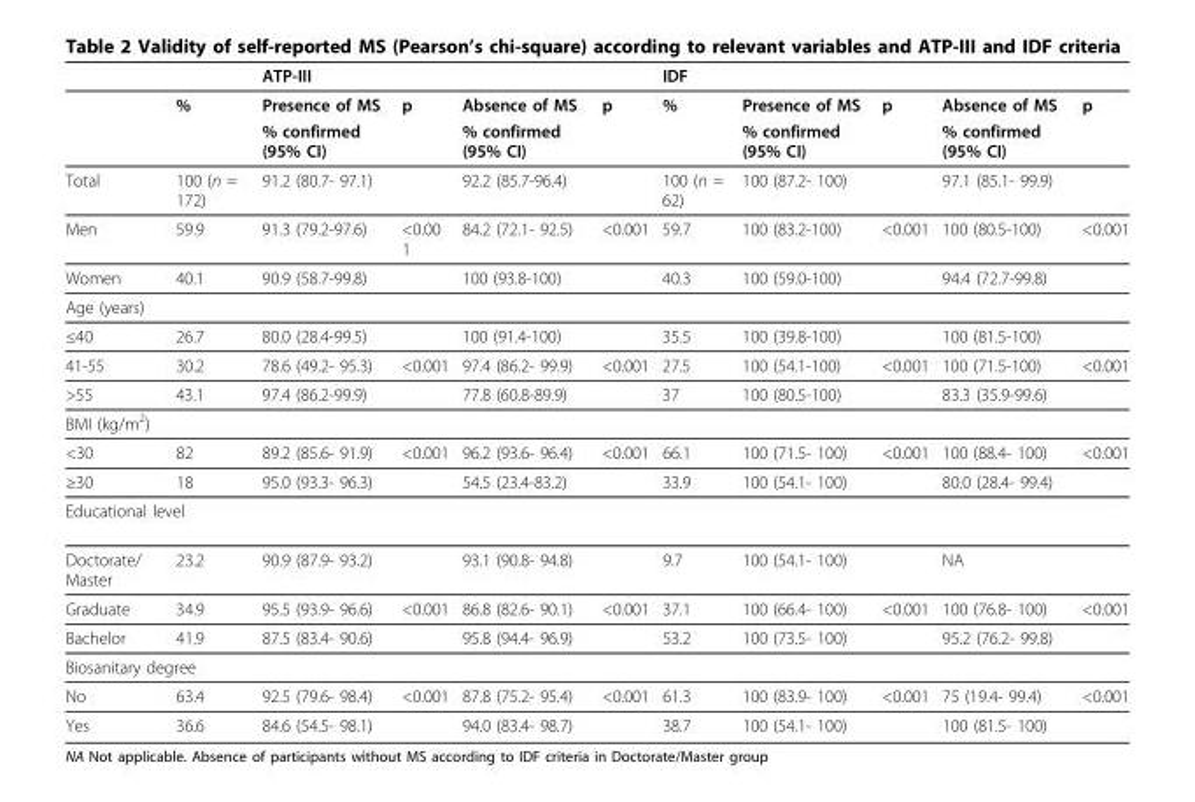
<table><thead><tr><td></td><td></td><td>ATP-III</td><td></td><td></td><td></td><td>IDF</td><td></td><td></td><td></td><td></td></tr></thead><tbody><tr><td></td><td>%</td><td>Presence of MS</td><td>p</td><td>Absence of MS</td><td>p</td><td>%</td><td>Presence of MS</td><td>p</td><td>Absence of MS</td><td>p</td></tr><tr><td></td><td></td><td>% confirmed (95% CI)</td><td></td><td>% confirmed (95% CI)</td><td></td><td></td><td>% confirmed (95% CI)</td><td></td><td>% confirmed (95% CI)</td><td></td></tr><tr><td>Total</td><td>100 (n = 172)</td><td>91.2 (80.7- 97.1)</td><td></td><td>92.2 (85.7-96.4)</td><td></td><td>100 (n = 62)</td><td>100 (87.2- 100)</td><td></td><td>97.1 (85.1- 99.9)</td><td></td></tr><tr><td>Men</td><td>59.9</td><td>91.3 (79.2-97.6)</td><td>&lt;0.00 1</td><td>84.2 (72.1- 92.5)</td><td>&lt;0.001</td><td>59.7</td><td>100 (83.2-100)</td><td>&lt;0.001</td><td>100 (80.5-100)</td><td>&lt;0.001</td></tr><tr><td>Women</td><td>40.1</td><td>90.9 (58.7-99.8)</td><td></td><td>100 (93.8-100)</td><td></td><td>40.3</td><td>100 (59.0-100)</td><td></td><td>94.4 (72.7-99.8)</td><td></td></tr><tr><td colspan="11">Age (years)</td></tr><tr><td>≤40</td><td>26.7</td><td>80.0 (28.4-99.5)</td><td></td><td>100 (91.4-100)</td><td></td><td>35.5</td><td>100 (39.8-100)</td><td></td><td>100 (81.5-100)</td><td></td></tr><tr><td>41-55</td><td>30.2</td><td>78.6 (49.2- 95.3)</td><td>&lt;0.001</td><td>97.4 (86.2- 99.9)</td><td>&lt;0.001</td><td>27.5</td><td>100 (54.1-100)</td><td>&lt;0.001</td><td>100 (71.5-100)</td><td>&lt;0.001</td></tr><tr><td>&gt;55</td><td>43.1</td><td>97.4 (86.2-99.9)</td><td></td><td>77.8 (60.8-89.9)</td><td></td><td>37</td><td>100 (80.5-100)</td><td></td><td>83.3 (35.9-99.6)</td><td></td></tr><tr><td colspan="11">BMI (kg/m<sup>2</sup>)</td></tr><tr><td>&lt;30</td><td>82</td><td>89.2 (85.6- 91.9)</td><td>&lt;0.001</td><td>96.2 (93.6- 96.4)</td><td>&lt;0.001</td><td>66.1</td><td>100 (71.5- 100)</td><td>&lt;0.001</td><td>100 (88.4- 100)</td><td>&lt;0.001</td></tr><tr><td>≥30</td><td>18</td><td>95.0 (93.3- 96.3)</td><td></td><td>54.5 (23.4-83.2)</td><td></td><td>33.9</td><td>100 (54.1- 100)</td><td></td><td>80.0 (28.4- 99.4)</td><td></td></tr><tr><td colspan="11">Educational level</td></tr><tr><td>Doctorate/ Master</td><td>23.2</td><td>90.9 (87.9- 93.2)</td><td></td><td>93.1 (90.8- 94.8)</td><td></td><td>9.7</td><td>100 (54.1- 100)</td><td></td><td>NA</td><td></td></tr><tr><td>Graduate</td><td>34.9</td><td>95.5 (93.9- 96.6)</td><td>&lt;0.001</td><td>86.8 (82.6- 90.1)</td><td>&lt;0.001</td><td>37.1</td><td>100 (66.4- 100)</td><td>&lt;0.001</td><td>100 (76.8- 100)</td><td>&lt;0.001</td></tr><tr><td>Bachelor</td><td>41.9</td><td>87.5 (83.4- 90.6)</td><td></td><td>95.8 (94.4- 96.9)</td><td></td><td>53.2</td><td>100 (73.5- 100)</td><td></td><td>95.2 (76.2- 99.8)</td><td></td></tr><tr><td colspan="11">Biosanitary degree</td></tr><tr><td>No</td><td>63.4</td><td>92.5 (79.6- 98.4)</td><td>&lt;0.001</td><td>87.8 (75.2- 95.4)</td><td>&lt;0.001</td><td>61.3</td><td>100 (83.9- 100)</td><td>&lt;0.001</td><td>75 (19.4- 99.4)</td><td>&lt;0.001</td></tr><tr><td>Yes</td><td>36.6</td><td>84.6 (54.5- 98.1)</td><td></td><td>94.0 (83.4- 98.7)</td><td></td><td>38.7</td><td>100 (54.1- 100)</td><td></td><td>100 (81.5- 100)</td><td></td></tr></tbody></table>